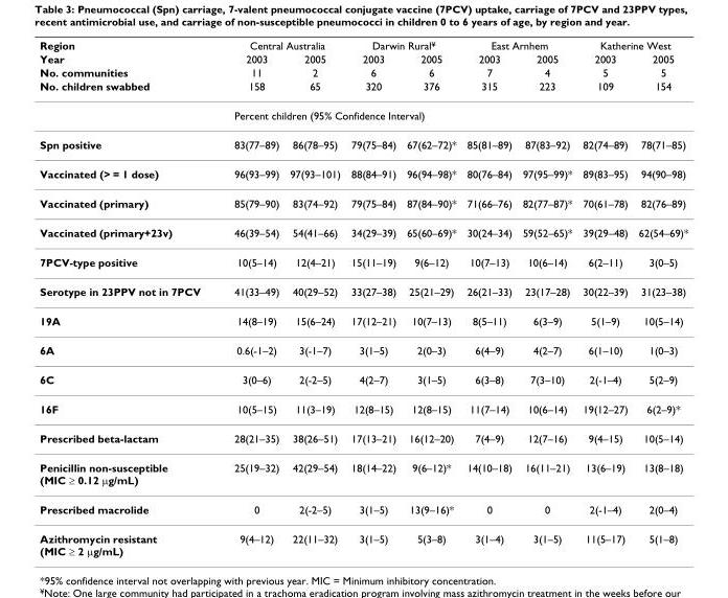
<table><thead><tr><td rowspan="4">Region Year No. communities No. children swabbed</td><td colspan="2">Central Australia</td><td colspan="2">Darwin Rural¥</td><td colspan="2">East Arnhem</td><td colspan="2">Katherine West</td></tr><tr><td rowspan="3">2003 11 158</td><td rowspan="3">2005 2 65</td><td rowspan="3">2003 6 320</td><td rowspan="3">2005 6 376</td><td rowspan="3">2003 7 315</td><td rowspan="3">2005 4 223</td><td rowspan="3">2003 5 109</td><td rowspan="3">2005 5 154</td></tr><tr></tr><tr></tr></thead><tbody><tr><td></td><td colspan="8">Percent children (95% Confidence Interval)</td></tr><tr><td>Spn positive</td><td>83(77–89)</td><td>86(78–95)</td><td>79(75–84)</td><td>67(62–72)*</td><td>85(81–89)</td><td>87(83–92)</td><td>82(74–89)</td><td>78(71–85)</td></tr><tr><td>Vaccinated (&gt; = 1 dose)</td><td>96(93–99)</td><td>97(93–101)</td><td>88(84–91)</td><td>96(94–98)*</td><td>80(76–84)</td><td>97(95–99)*</td><td>89(83–95)</td><td>94(90–98)</td></tr><tr><td>Vaccinated (primary)</td><td>85(79–90)</td><td>83(74–92)</td><td>79(75–84)</td><td>87(84–90)*</td><td>71(66–76)</td><td>82(77–87)*</td><td>70(61–78)</td><td>82(76–89)</td></tr><tr><td>Vaccinated (primary+23v)</td><td>46(39–54)</td><td>54(41–66)</td><td>34(29–39)</td><td>65(60–69)*</td><td>30(24–34)</td><td>59(52–65)*</td><td>39(29–48)</td><td>62(54–69)*</td></tr><tr><td>7PCV-type positive</td><td>10(5–14)</td><td>12(4–21)</td><td>15(11–19)</td><td>9(6–12)</td><td>10(7–13)</td><td>10(6–14)</td><td>6(2–11)</td><td>3(0–5)</td></tr><tr><td>Serotype in 23PPV not in 7PCV</td><td>41(33–49)</td><td>40(29–52)</td><td>33(27–38)</td><td>25(21–29)</td><td>26(21–33)</td><td>23(17–28)</td><td>30(22–39)</td><td>31(23–38)</td></tr><tr><td>19A</td><td>14(8–19)</td><td>15(6–24)</td><td>17(12–21)</td><td>10(7–13)</td><td>8(5–11)</td><td>6(3–9)</td><td>5(1–9)</td><td>10(5–14)</td></tr><tr><td>6A</td><td>0.6(-1–2)</td><td>3(-1–7)</td><td>3(1–5)</td><td>2(0–3)</td><td>6(4–9)</td><td>4(2–7)</td><td>6(1–10)</td><td>1(0–3)</td></tr><tr><td>6C</td><td>3(0–6)</td><td>2(-2–5)</td><td>4(2–7)</td><td>3(1–5)</td><td>6(3–8)</td><td>7(3–10)</td><td>2(-1–4)</td><td>5(2–9)</td></tr><tr><td>16F</td><td>10(5–15)</td><td>11(3–19)</td><td>12(8–15)</td><td>12(8–15)</td><td>11(7–14)</td><td>10(6–14)</td><td>19(12–27)</td><td>6(2–9)*</td></tr><tr><td>Prescribed beta-lactam</td><td>28(21–35)</td><td>38(26–51)</td><td>17(13–21)</td><td>16(12–20)</td><td>7(4–9)</td><td>12(7–16)</td><td>9(4–15)</td><td>10(5–14)</td></tr><tr><td>Penicillin non-susceptible (MIC ≥ 0.12 μg/mL)</td><td>25(19–32)</td><td>42(29–54)</td><td>18(14–22)</td><td>9(6–12)*</td><td>14(10–18)</td><td>16(11–21)</td><td>13(6–19)</td><td>13(8–18)</td></tr><tr><td>Prescribed macrolide</td><td>0</td><td>2(-2–5)</td><td>3(1–5)</td><td>13(9–16)*</td><td>0</td><td>0</td><td>2(-1–4)</td><td>2(0–4)</td></tr><tr><td>Azithromycin resistant (MIC ≥ 2 μg/mL)</td><td>9(4–12)</td><td>22(11–32)</td><td>3(1–5)</td><td>5(3–8)</td><td>3(1–4)</td><td>3(1–5)</td><td>11(5–17)</td><td>5(1–8)</td></tr></tbody></table>